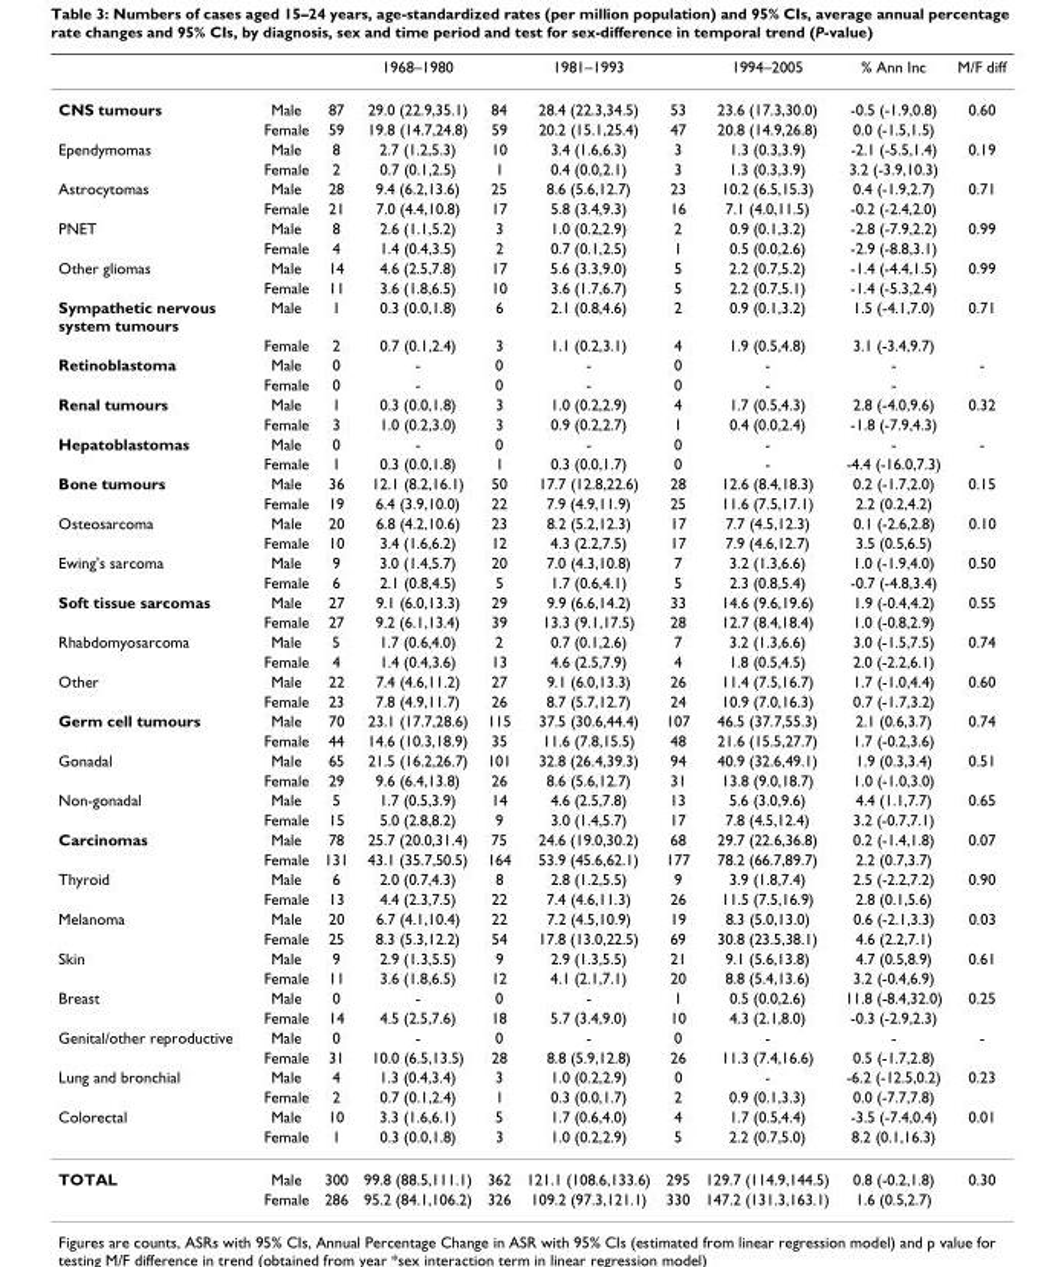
<table><thead><tr><td></td><td></td><td></td><td>1968–1980</td><td></td><td>1981–1993</td><td></td><td>1994–2005</td><td>% Ann Inc</td><td>M/F diff</td></tr></thead><tbody><tr><td rowspan="2">CNS tumours</td><td>Male</td><td>87</td><td>29.0 (22.9,35.1)</td><td>84</td><td>28.4 (22.3,34.5)</td><td>53</td><td>23.6 (17.3,30.0)</td><td>-0.5 (-1.9,0.8)</td><td>0.60</td></tr><tr><td>Female</td><td>59</td><td>19.8 (14.7,24.8)</td><td>59</td><td>20.2 (15.1,25.4)</td><td>47</td><td>20.8 (14.9,26.8)</td><td>0.0 (-1.5,1.5)</td><td></td></tr><tr><td rowspan="2">Ependymomas</td><td>Male</td><td>8</td><td>2.7 (1.2,5.3)</td><td>10</td><td>3.4 (1.6,6.3)</td><td>3</td><td>1.3 (0.3,3.9)</td><td>-2.1 (-5.5,1.4)</td><td>0.19</td></tr><tr><td>Female</td><td>2</td><td>0.7 (0.1,2.5)</td><td>1</td><td>0.4 (0.0,2.1)</td><td>3</td><td>1.3 (0.3,3.9)</td><td>3.2 (-3.9,10.3)</td><td></td></tr><tr><td rowspan="2">Astrocytomas</td><td>Male</td><td>28</td><td>9.4 (6.2,13.6)</td><td>25</td><td>8.6 (5.6,12.7)</td><td>23</td><td>10.2 (6.5,15.3)</td><td>0.4 (-1.9,2.7)</td><td>0.71</td></tr><tr><td>Female</td><td>21</td><td>7.0 (4.4,10.8)</td><td>17</td><td>5.8 (3.4,9.3)</td><td>16</td><td>7.1 (4.0,11.5)</td><td>-0.2 (-2.4,2.0)</td><td></td></tr><tr><td rowspan="2">PNET</td><td>Male</td><td>8</td><td>2.6 (1.1,5.2)</td><td>3</td><td>1.0 (0.2,2.9)</td><td>2</td><td>0.9 (0.1,3.2)</td><td>-2.8 (-7.9,2.2)</td><td>0.99</td></tr><tr><td>Female</td><td>4</td><td>1.4 (0.4,3.5)</td><td>2</td><td>0.7 (0.1,2.5)</td><td>1</td><td>0.5 (0.0,2.6)</td><td>-2.9 (-8.8,3.1)</td><td></td></tr><tr><td rowspan="2">Other gliomas</td><td>Male</td><td>14</td><td>4.6 (2.5,7.8)</td><td>17</td><td>5.6 (3.3,9.0)</td><td>5</td><td>2.2 (0.7,5.2)</td><td>-1.4 (-4.4,1.5)</td><td>0.99</td></tr><tr><td>Female</td><td>11</td><td>3.6 (1.8,6.5)</td><td>10</td><td>3.6 (1.7,6.7)</td><td>5</td><td>2.2 (0.7,5.1)</td><td>-1.4 (-5.3,2.4)</td><td></td></tr><tr><td rowspan="2">Sympathetic nervous system tumours</td><td>Male</td><td>1</td><td>0.3 (0.0,1.8)</td><td>6</td><td>2.1 (0.8,4.6)</td><td>2</td><td>0.9 (0.1,3.2)</td><td>1.5 (-4.1,7.0)</td><td>0.71</td></tr><tr><td>Female</td><td>2</td><td>0.7 (0.1,2.4)</td><td>3</td><td>1.1 (0.2,3.1)</td><td>4</td><td>1.9 (0.5,4.8)</td><td>3.1 (-3.4,9.7)</td><td></td></tr><tr><td rowspan="2">Retinoblastoma</td><td>Male</td><td>0</td><td>-</td><td>0</td><td>-</td><td>0</td><td>-</td><td>-</td><td>-</td></tr><tr><td>Female</td><td>0</td><td>-</td><td>0</td><td>-</td><td>0</td><td>-</td><td>-</td><td></td></tr><tr><td rowspan="2">Renal tumours</td><td>Male</td><td>1</td><td>0.3 (0.0,1.8)</td><td>3</td><td>1.0 (0.2,2.9)</td><td>4</td><td>1.7 (0.5,4.3)</td><td>2.8 (-4.0,9.6)</td><td>0.32</td></tr><tr><td>Female</td><td>3</td><td>1.0 (0.2,3.0)</td><td>3</td><td>0.9 (0.2,2.7)</td><td>1</td><td>0.4 (0.0,2.4)</td><td>-1.8 (-7.9,4.3)</td><td></td></tr><tr><td rowspan="2">Hepatoblastomas</td><td>Male</td><td>0</td><td>-</td><td>0</td><td>-</td><td>0</td><td>-</td><td>-</td><td>-</td></tr><tr><td>Female</td><td>1</td><td>0.3 (0.0,1.8)</td><td>1</td><td>0.3 (0.0,1.7)</td><td>0</td><td>-</td><td>-4.4 (-16.0,7.3)</td><td></td></tr><tr><td rowspan="2">Bone tumours</td><td>Male</td><td>36</td><td>12.1 (8.2,16.1)</td><td>50</td><td>17.7 (12.8,22.6)</td><td>28</td><td>12.6 (8.4,18.3)</td><td>0.2 (-1.7,2.0)</td><td>0.15</td></tr><tr><td>Female</td><td>19</td><td>6.4 (3.9,10.0)</td><td>22</td><td>7.9 (4.9,11.9)</td><td>25</td><td>11.6 (7.5,17.1)</td><td>2.2 (0.2,4.2)</td><td></td></tr><tr><td rowspan="2">Osteosarcoma</td><td>Male</td><td>20</td><td>6.8 (4.2,10.6)</td><td>23</td><td>8.2 (5.2,12.3)</td><td>17</td><td>7.7 (4.5,12.3)</td><td>0.1 (-2.6,2.8)</td><td>0.10</td></tr><tr><td>Female</td><td>10</td><td>3.4 (1.6,6.2)</td><td>12</td><td>4.3 (2.2,7.5)</td><td>17</td><td>7.9 (4.6,12.7)</td><td>3.5 (0.5,6.5)</td><td></td></tr><tr><td rowspan="2">Ewing&#x27;s sarcoma</td><td>Male</td><td>9</td><td>3.0 (1.4,5.7)</td><td>20</td><td>7.0 (4.3,10.8)</td><td>7</td><td>3.2 (1.3,6.6)</td><td>1.0 (-1.9,4.0)</td><td>0.50</td></tr><tr><td>Female</td><td>6</td><td>2.1 (0.8,4.5)</td><td>5</td><td>1.7 (0.6,4.1)</td><td>5</td><td>2.3 (0.8,5.4)</td><td>-0.7 (-4.8,3.4)</td><td></td></tr><tr><td rowspan="2">Soft tissue sarcomas</td><td>Male</td><td>27</td><td>9.1 (6.0,13.3)</td><td>29</td><td>9.9 (6.6,14.2)</td><td>33</td><td>14.6 (9.6,19.6)</td><td>1.9 (-0.4,4.2)</td><td>0.55</td></tr><tr><td>Female</td><td>27</td><td>9.2 (6.1,13.4)</td><td>39</td><td>13.3 (9.1,17.5)</td><td>28</td><td>12.7 (8.4,18.4)</td><td>1.0 (-0.8,2.9)</td><td></td></tr><tr><td rowspan="2">Rhabdomyosarcoma</td><td>Male</td><td>5</td><td>1.7 (0.6,4.0)</td><td>2</td><td>0.7 (0.1,2.6)</td><td>7</td><td>3.2 (1.3,6.6)</td><td>3.0 (-1.5,7.5)</td><td>0.74</td></tr><tr><td>Female</td><td>4</td><td>1.4 (0.4,3.6)</td><td>13</td><td>4.6 (2.5,7.9)</td><td>4</td><td>1.8 (0.5,4.5)</td><td>2.0 (-2.2,6.1)</td><td></td></tr><tr><td rowspan="2">Other</td><td>Male</td><td>22</td><td>7.4 (4.6,11.2)</td><td>27</td><td>9.1 (6.0,13.3)</td><td>26</td><td>11.4 (7.5,16.7)</td><td>1.7 (-1.0,4.4)</td><td>0.60</td></tr><tr><td>Female</td><td>23</td><td>7.8 (4.9,11.7)</td><td>26</td><td>8.7 (5.7,12.7)</td><td>24</td><td>10.9 (7.0,16.3)</td><td>0.7 (-1.7,3.2)</td><td></td></tr><tr><td rowspan="2">Germ cell tumours</td><td>Male</td><td>70</td><td>23.1 (17.7,28.6)</td><td>115</td><td>37.5 (30.6,44.4)</td><td>107</td><td>46.5 (37.7,55.3)</td><td>2.1 (0.6,3.7)</td><td>0.74</td></tr><tr><td>Female</td><td>44</td><td>14.6 (10.3,18.9)</td><td>35</td><td>11.6 (7.8,15.5)</td><td>48</td><td>21.6 (15.5,27.7)</td><td>1.7 (-0.2,3.6)</td><td></td></tr><tr><td rowspan="2">Gonadal</td><td>Male</td><td>65</td><td>21.5 (16.2,26.7)</td><td>101</td><td>32.8 (26.4,39.3)</td><td>94</td><td>40.9 (32.6,49.1)</td><td>1.9 (0.3,3.4)</td><td>0.51</td></tr><tr><td>Female</td><td>29</td><td>9.6 (6.4,13.8)</td><td>26</td><td>8.6 (5.6,12.7)</td><td>31</td><td>13.8 (9.0,18.7)</td><td>1.0 (-1.0,3.0)</td><td></td></tr><tr><td rowspan="2">Non-gonadal</td><td>Male</td><td>5</td><td>1.7 (0.5,3.9)</td><td>14</td><td>4.6 (2.5,7.8)</td><td>13</td><td>5.6 (3.0,9.6)</td><td>4.4 (1.1,7.7)</td><td>0.65</td></tr><tr><td>Female</td><td>15</td><td>5.0 (2.8,8.2)</td><td>9</td><td>3.0 (1.4,5.7)</td><td>17</td><td>7.8 (4.5,12.4)</td><td>3.2 (-0.7,7.1)</td><td></td></tr><tr><td rowspan="2">Carcinomas</td><td>Male</td><td>78</td><td>25.7 (20.0,31.4)</td><td>75</td><td>24.6 (19.0,30.2)</td><td>68</td><td>29.7 (22.6,36.8)</td><td>0.2 (-1.4,1.8)</td><td>0.07</td></tr><tr><td>Female</td><td>131</td><td>43.1 (35.7,50.5)</td><td>164</td><td>53.9 (45.6,62.1)</td><td>177</td><td>78.2 (66.7,89.7)</td><td>2.2 (0.7,3.7)</td><td></td></tr><tr><td rowspan="2">Thyroid</td><td>Male</td><td>6</td><td>2.0 (0.7,4.3)</td><td>8</td><td>2.8 (1.2,5.5)</td><td>9</td><td>3.9 (1.8,7.4)</td><td>2.5 (-2.2,7.2)</td><td>0.90</td></tr><tr><td>Female</td><td>13</td><td>4.4 (2.3,7.5)</td><td>22</td><td>7.4 (4.6,11.3)</td><td>26</td><td>11.5 (7.5,16.9)</td><td>2.8 (0.1,5.6)</td><td></td></tr><tr><td rowspan="2">Melanoma</td><td>Male</td><td>20</td><td>6.7 (4.1,10.4)</td><td>22</td><td>7.2 (4.5,10.9)</td><td>19</td><td>8.3 (5.0,13.0)</td><td>0.6 (-2.1,3.3)</td><td>0.03</td></tr><tr><td>Female</td><td>25</td><td>8.3 (5.3,12.2)</td><td>54</td><td>17.8 (13.0,22.5)</td><td>69</td><td>30.8 (23.5,38.1)</td><td>4.6 (2.2,7.1)</td><td></td></tr><tr><td rowspan="2">Skin</td><td>Male</td><td>9</td><td>2.9 (1.3,5.5)</td><td>9</td><td>2.9 (1.3,5.5)</td><td>21</td><td>9.1 (5.6,13.8)</td><td>4.7 (0.5,8.9)</td><td>0.61</td></tr><tr><td>Female</td><td>11</td><td>3.6 (1.8,6.5)</td><td>12</td><td>4.1 (2.1,7.1)</td><td>20</td><td>8.8 (5.4,13.6)</td><td>3.2 (-0.4,6.9)</td><td></td></tr><tr><td rowspan="2">Breast</td><td>Male</td><td>0</td><td>-</td><td>0</td><td>-</td><td>1</td><td>0.5 (0.0,2.6)</td><td>11.8 (-8.4,32.0)</td><td>0.25</td></tr><tr><td>Female</td><td>14</td><td>4.5 (2.5,7.6)</td><td>18</td><td>5.7 (3.4,9.0)</td><td>10</td><td>4.3 (2.1,8.0)</td><td>-0.3 (-2.9,2.3)</td><td></td></tr><tr><td rowspan="2">Genital/other reproductive</td><td>Male</td><td>0</td><td>-</td><td>0</td><td>-</td><td>0</td><td>-</td><td>-</td><td>-</td></tr><tr><td>Female</td><td>31</td><td>10.0 (6.5,13.5)</td><td>28</td><td>8.8 (5.9,12.8)</td><td>26</td><td>11.3 (7.4,16.6)</td><td>0.5 (-1.7,2.8)</td><td></td></tr><tr><td rowspan="2">Lung and bronchial</td><td>Male</td><td>4</td><td>1.3 (0.4,3.4)</td><td>3</td><td>1.0 (0.2,2.9)</td><td>0</td><td>-</td><td>-6.2 (-12.5,0.2)</td><td>0.23</td></tr><tr><td>Female</td><td>2</td><td>0.7 (0.1,2.4)</td><td>1</td><td>0.3 (0.0,1.7)</td><td>2</td><td>0.9 (0.1,3.3)</td><td>0.0 (-7.7,7.8)</td><td></td></tr><tr><td rowspan="2">Colorectal</td><td>Male</td><td>10</td><td>3.3 (1.6,6.1)</td><td>5</td><td>1.7 (0.6,4.0)</td><td>4</td><td>1.7 (0.5,4.4)</td><td>-3.5 (-7.4,0.4)</td><td>0.01</td></tr><tr><td>Female</td><td>1</td><td>0.3 (0.0,1.8)</td><td>3</td><td>1.0 (0.2,2.9)</td><td>5</td><td>2.2 (0.7,5.0)</td><td>8.2 (0.1,16.3)</td><td></td></tr><tr><td rowspan="2">TOTAL</td><td>Male</td><td>300</td><td>99.8 (88.5,111.1)</td><td>362</td><td>121.1 (108.6,133.6)</td><td>295</td><td>129.7 (114.9,144.5)</td><td>0.8 (-0.2,1.8)</td><td>0.30</td></tr><tr><td>Female</td><td>286</td><td>95.2 (84.1,106.2)</td><td>326</td><td>109.2 (97.3,121.1)</td><td>330</td><td>147.2 (131.3,163.1)</td><td>1.6 (0.5,2.7)</td><td></td></tr></tbody></table>